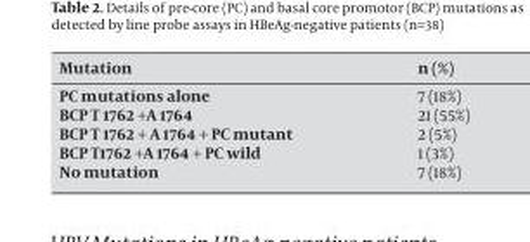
<table><thead><tr><td>Mutation</td><td>n (%)</td></tr></thead><tbody><tr><td>PC mutations alone</td><td>7 (18%)</td></tr><tr><td>BCP T 1762 +A 1764</td><td>21 (55%)</td></tr><tr><td>BCP T 1762 + A 1764 + PC mutant</td><td>2 (5%)</td></tr><tr><td>BCP T1762 +A 1764 + PC wild</td><td>1 (3%)</td></tr><tr><td>No mutation</td><td>7 (18%)</td></tr></tbody></table>